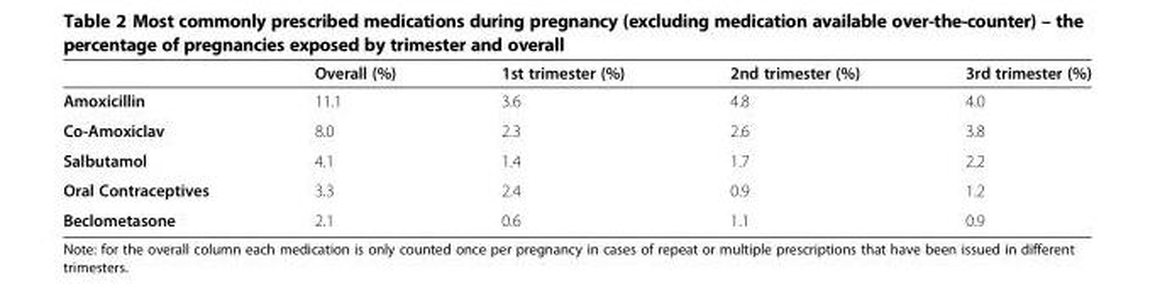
<table><thead><tr><td></td><td>Overall (%)</td><td>1st trimester (%)</td><td>2nd trimester (%)</td><td>3rd trimester (%)</td></tr></thead><tbody><tr><td>Amoxicillin</td><td>11.1</td><td>3.6</td><td>4.8</td><td>4.0</td></tr><tr><td>Co-Amoxiclav</td><td>8.0</td><td>2.3</td><td>2.6</td><td>3.8</td></tr><tr><td>Salbutamol</td><td>4.1</td><td>1.4</td><td>1.7</td><td>2.2</td></tr><tr><td>Oral Contraceptives</td><td>3.3</td><td>2.4</td><td>0.9</td><td>1.2</td></tr><tr><td>Beclometasone</td><td>2.1</td><td>0.6</td><td>1.1</td><td>0.9</td></tr></tbody></table>